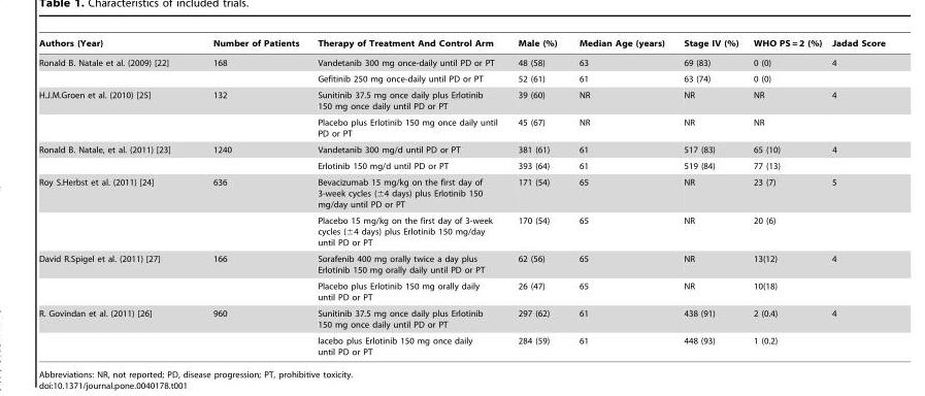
<table><thead><tr><td>Authors (Year)</td><td>Number of Patients</td><td>Therapy of Treatment And Control Arm</td><td>Male (%)</td><td>Median Age (years)</td><td>Stage IV (%)</td><td>WHO PS = 2 (%)</td><td>Jadad Score</td></tr></thead><tbody><tr><td rowspan="2">Ronald B. Natale et al. (2009) [22]</td><td>168</td><td>Vandetanib 300 mg once-daily until PD or PT</td><td>48 (58)</td><td>63</td><td>69 (83)</td><td>0 (0)</td><td>4</td></tr><tr><td></td><td>Gefitinib 250 mg once-daily until PD or PT</td><td>52 (61)</td><td>61</td><td>63 (74)</td><td>0 (0)</td><td></td></tr><tr><td rowspan="2">H.J.M.Groen et al. (2010) [25]</td><td>132</td><td>Sunitinib 37.5 mg once daily plus Erlotinib 150 mg once daily until PD or PT</td><td>39 (60)</td><td>NR</td><td>NR</td><td>NR</td><td>4</td></tr><tr><td></td><td>Placebo plus Erlotinib 150 mg once daily until PD or PT</td><td>45 (67)</td><td>NR</td><td>NR</td><td>NR</td><td></td></tr><tr><td rowspan="2">Ronald B. Natale, et al. (2011) [23]</td><td>1240</td><td>Vandetanib 300 mg/d until PD or PT</td><td>381 (61)</td><td>61</td><td>517 (83)</td><td>65 (10)</td><td>4</td></tr><tr><td></td><td>Erlotinib 150 mg/d until PD or PT</td><td>393 (64)</td><td>61</td><td>519 (84)</td><td>77 (13)</td><td></td></tr><tr><td rowspan="2">Roy S.Herbst et al. (2011) [24]</td><td>636</td><td>Bevacizumab 15 mg/kg on the first day of 3-week cycles (±4 days) plus Erlotinib 150 mg/day until PD or PT</td><td>171 (54)</td><td>65</td><td>NR</td><td>23 (7)</td><td>5</td></tr><tr><td></td><td>Placebo 15 mg/kg on the first day of 3-week cycles (±4 days) plus Erlotinib 150 mg/day until PD or PT</td><td>170 (54)</td><td>65</td><td>NR</td><td>20 (6)</td><td></td></tr><tr><td rowspan="2">David R.Spigel et al. (2011) [27]</td><td>166</td><td>Sorafenib 400 mg orally twice a day plus Erlotinib 150 mg orally daily until PD or PT</td><td>62 (56)</td><td>65</td><td>NR</td><td>13(12)</td><td>4</td></tr><tr><td></td><td>Placebo plus Erlotinib 150 mg orally daily until PD or PT</td><td>26 (47)</td><td>65</td><td>NR</td><td>10(18)</td><td></td></tr><tr><td rowspan="2">R. Govindan et al. (2011) [26]</td><td>960</td><td>Sunitinib 37.5 mg once daily plus Erlotinib 150 mg once daily until PD or PT</td><td>297 (62)</td><td>61</td><td>438 (91)</td><td>2 (0.4)</td><td>4</td></tr><tr><td></td><td>lacebo plus Erlotinib 150 mg once daily until PD or PT</td><td>284 (59)</td><td>61</td><td>448 (93)</td><td>1 (0.2)</td><td></td></tr></tbody></table>